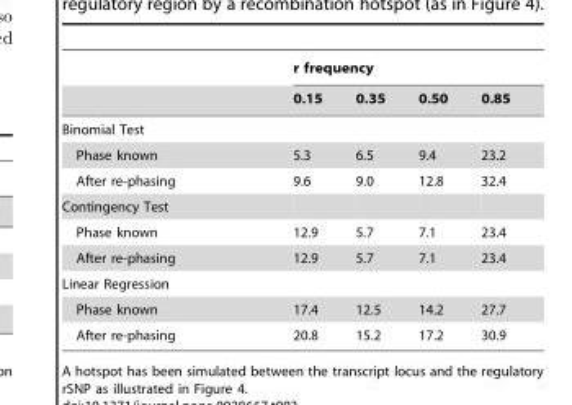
<table><thead><tr><td rowspan="2"></td><td colspan="4">r frequency</td></tr><tr><td>0.15</td><td>0.35</td><td>0.50</td><td>0.85</td></tr></thead><tbody><tr><td colspan="5">Binomial Test</td></tr><tr><td>Phase known</td><td>5.3</td><td>6.5</td><td>9.4</td><td>23.2</td></tr><tr><td>After re-phasing</td><td>9.6</td><td>9.0</td><td>12.8</td><td>32.4</td></tr><tr><td colspan="5">Contingency Test</td></tr><tr><td>Phase known</td><td>12.9</td><td>5.7</td><td>7.1</td><td>23.4</td></tr><tr><td>After re-phasing</td><td>12.9</td><td>5.7</td><td>7.1</td><td>23.4</td></tr><tr><td colspan="5">Linear Regression</td></tr><tr><td>Phase known</td><td>17.4</td><td>12.5</td><td>14.2</td><td>27.7</td></tr><tr><td>After re-phasing</td><td>20.8</td><td>15.2</td><td>17.2</td><td>30.9</td></tr></tbody></table>